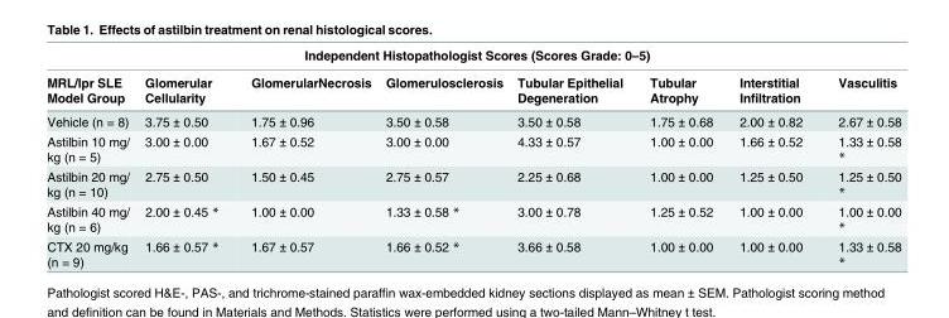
<table><thead><tr><td colspan="8">Independent Histopathologist Scores (Scores Grade: 0–5)</td></tr><tr><td>MRL/lpr SLE Model Group</td><td>Glomerular Cellularity</td><td>GlomerularNecrosis</td><td>Glomerulosclerosis</td><td>Tubular Epithelial Degeneration</td><td>Tubular Atrophy</td><td>Interstitial Infiltration</td><td>Vasculitis</td></tr></thead><tbody><tr><td>Vehicle (n = 8)</td><td>3.75 ± 0.50</td><td>1.75 ± 0.96</td><td>3.50 ± 0.58</td><td>3.50 ± 0.58</td><td>1.75 ± 0.68</td><td>2.00 ± 0.82</td><td>2.67 ± 0.58</td></tr><tr><td>Astilbin 10 mg/ kg (n = 5)</td><td>3.00 ± 0.00</td><td>1.67 ± 0.52</td><td>3.00 ± 0.00</td><td>4.33 ± 0.57</td><td>1.00 ± 0.00</td><td>1.66 ± 0.52</td><td>1.33 ± 0.58 *</td></tr><tr><td>Astilbin 20 mg/ kg (n = 10)</td><td>2.75 ± 0.50</td><td>1.50 ± 0.45</td><td>2.75 ± 0.57</td><td>2.25 ± 0.68</td><td>1.00 ± 0.00</td><td>1.25 ± 0.50</td><td>1.25 ± 0.50 *</td></tr><tr><td>Astilbin 40 mg/ kg (n = 6)</td><td>2.00 ± 0.45 *</td><td>1.00 ± 0.00</td><td>1.33 ± 0.58 *</td><td>3.00 ± 0.78</td><td>1.25 ± 0.52</td><td>1.00 ± 0.00</td><td>1.00 ± 0.00 *</td></tr><tr><td>CTX 20 mg/kg (n = 9)</td><td>1.66 ± 0.57 *</td><td>1.67 ± 0.57</td><td>1.66 ± 0.52 *</td><td>3.66 ± 0.58</td><td>1.00 ± 0.00</td><td>1.00 ± 0.00</td><td>1.33 ± 0.58 *</td></tr></tbody></table>